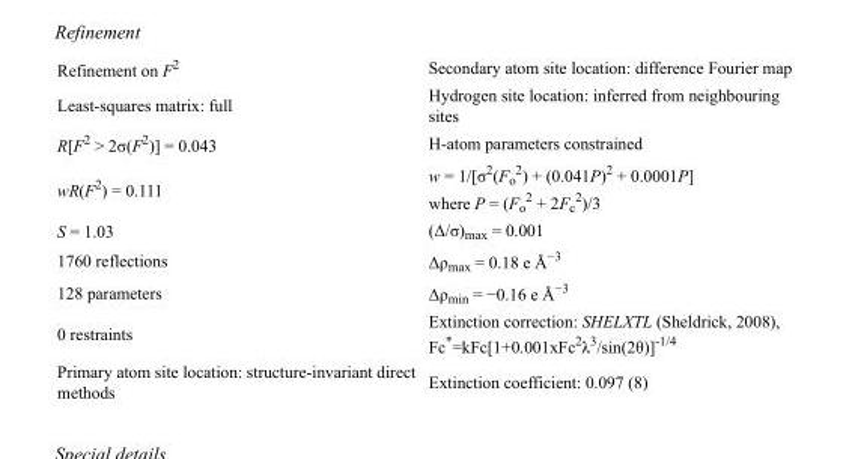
<table><tbody><tr><td>Refinement on F<sup>2</sup></td><td>Secondary atom site location: difference Fourier map</td></tr><tr><td>Least-squares matrix: full</td><td>Hydrogen site location: inferred from neighbouring sites</td></tr><tr><td>R[F<sup>2</sup> &gt; 2σ(F<sup>2</sup>)] = 0.043</td><td>H-atom parameters constrained</td></tr><tr><td>wR(F<sup>2</sup>) = 0.111</td><td>w = 1/[σ<sup>2</sup>(F<sub>o</sub> <sup>2</sup>) + (0.041P)<sup>2</sup> + 0.0001P] where P = (F<sub>o</sub> <sup>2</sup> + 2F<sub>c</sub> <sup>2</sup>)/3</td></tr><tr><td>S = 1.03</td><td>(Δ/σ)<sub>max</sub> = 0.001</td></tr><tr><td>1760 reflections</td><td>Δρ<sub>max</sub> = 0.18 e Å<sup>−3</sup></td></tr><tr><td>128 parameters</td><td>Δρ<sub>min</sub> = −0.16 e Å<sup>−3</sup></td></tr><tr><td>0 restraints</td><td>Extinction correction: SHELXTL (Sheldrick, 2008), Fc*=kFc[1+0.001xFc<sup>2</sup>λ<sup>3</sup>/sin(2θ)]<sup>-1/4</sup></td></tr><tr><td>Primary atom site location: structure-invariant direct methods</td><td>Extinction coefficient: 0.097 (8)</td></tr></tbody></table>